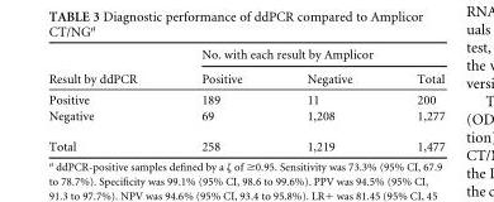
<table><thead><tr><td rowspan="2">Result by ddPCR</td><td colspan="3">No. with each result by Amplicor</td></tr><tr><td>Positive</td><td>Negative</td><td>Total</td></tr></thead><tbody><tr><td>Positive</td><td>189</td><td>11</td><td>200</td></tr><tr><td>Negative</td><td>69</td><td>1,208</td><td>1,277</td></tr><tr><td>Total</td><td>258</td><td>1,219</td><td>1,477</td></tr></tbody></table>